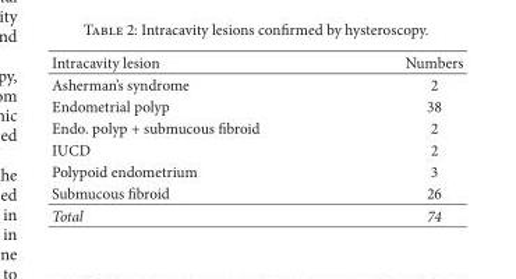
<table><thead><tr><td>Intracavity lesion</td><td>Numbers</td></tr></thead><tbody><tr><td>Asherman’s syndrome</td><td>2</td></tr><tr><td>Endometrial polyp</td><td>38</td></tr><tr><td>Endo. polyp + submucous fibroid</td><td>2</td></tr><tr><td>IUCD</td><td>2</td></tr><tr><td>Polypoid endometrium</td><td>3</td></tr><tr><td>Submucous fibroid</td><td>26</td></tr><tr><td>Total</td><td>74</td></tr></tbody></table>